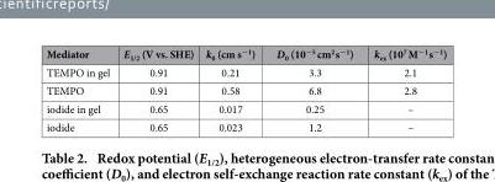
<table><thead><tr><td>Mediator</td><td>E<sub>1/2</sub> (V vs. SHE)</td><td>k<sub>0</sub> (cm s<sup>−1</sup>)</td><td>D<sub>0</sub> (10<sup>−5</sup> cm<sup>2</sup> s<sup>−1</sup>)</td><td>k<sub>ex</sub> (10<sup>7</sup> M<sup>−1</sup> s<sup>−1</sup>)</td></tr></thead><tbody><tr><td>TEMPO in gel</td><td>0.91</td><td>0.21</td><td>3.3</td><td>2.1</td></tr><tr><td>TEMPO</td><td>0.91</td><td>0.58</td><td>6.8</td><td>2.8</td></tr><tr><td>iodide in gel</td><td>0.65</td><td>0.017</td><td>0.25</td><td>–</td></tr><tr><td>iodide</td><td>0.65</td><td>0.023</td><td>1.2</td><td>–</td></tr></tbody></table>